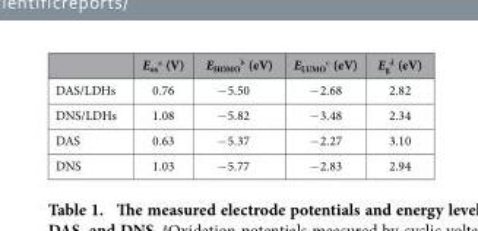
<table><thead><tr><td></td><td>E<sub>ox</sub> <sup>a</sup> (V)</td><td>E<sub>HOMO</sub> <sup>b</sup> (eV)</td><td>E<sub>LUMO</sub> <sup>c</sup> (eV)</td><td>E<sub>g</sub> <sup>d</sup> (eV)</td></tr></thead><tbody><tr><td>DAS/LDHs</td><td>0.76</td><td>− 5.50</td><td>− 2.68</td><td>2.82</td></tr><tr><td>DNS/LDHs</td><td>1.08</td><td>− 5.82</td><td>− 3.48</td><td>2.34</td></tr><tr><td>DAS</td><td>0.63</td><td>− 5.37</td><td>− 2.27</td><td>3.10</td></tr><tr><td>DNS</td><td>1.03</td><td>− 5.77</td><td>− 2.83</td><td>2.94</td></tr></tbody></table>